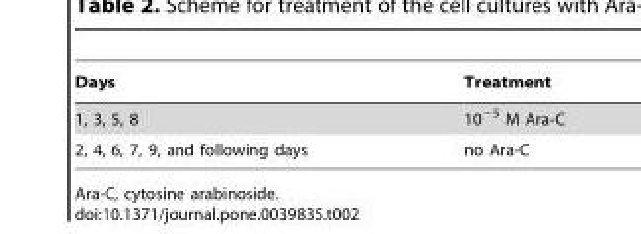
<table><thead><tr><td>Days</td><td>Treatment</td></tr></thead><tbody><tr><td>1, 3, 5, 8</td><td>10<sup>−5</sup> M Ara-C</td></tr><tr><td>2, 4, 6, 7, 9, and following days</td><td>no Ara-C</td></tr></tbody></table>